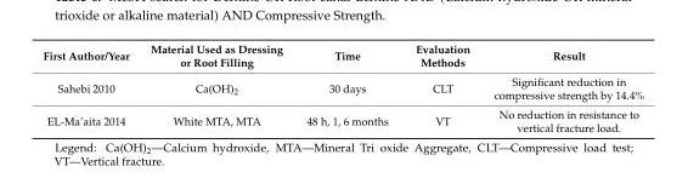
<table><thead><tr><td>First Author/Year</td><td>Material Used as Dressing or Root Filling</td><td>Time</td><td>Evaluation Methods</td><td>Result</td></tr></thead><tbody><tr><td>Sahebi 2010</td><td>Ca(OH)<sub>2</sub></td><td>30 days</td><td>CLT</td><td>Significant reduction in compressive strength by 14.4%</td></tr><tr><td>EL-Ma’aita 2014</td><td>White MTA, MTA</td><td>48 h, 1, 6 months</td><td>VT</td><td>No reduction in resistance to vertical fracture load.</td></tr></tbody></table>